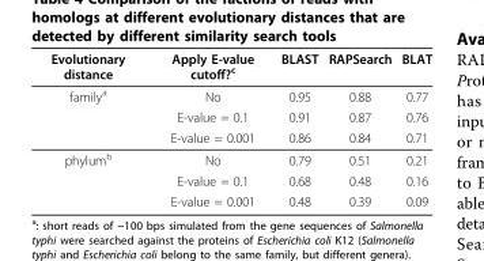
<table><thead><tr><td>Evolutionary distance</td><td>Apply E-value cutoff?<sup>c</sup></td><td>BLAST</td><td>RAPSearch</td><td>BLAT</td></tr></thead><tbody><tr><td rowspan="3">family<sup>a</sup></td><td>No</td><td>0.95</td><td>0.88</td><td>0.77</td></tr><tr><td>E-value = 0.1</td><td>0.91</td><td>0.87</td><td>0.76</td></tr><tr><td>E-value = 0.001</td><td>0.86</td><td>0.84</td><td>0.71</td></tr><tr><td rowspan="3">phylum<sup>b</sup></td><td>No</td><td>0.79</td><td>0.51</td><td>0.21</td></tr><tr><td>E-value = 0.1</td><td>0.68</td><td>0.48</td><td>0.16</td></tr><tr><td>E-value = 0.001</td><td>0.48</td><td>0.39</td><td>0.09</td></tr></tbody></table>